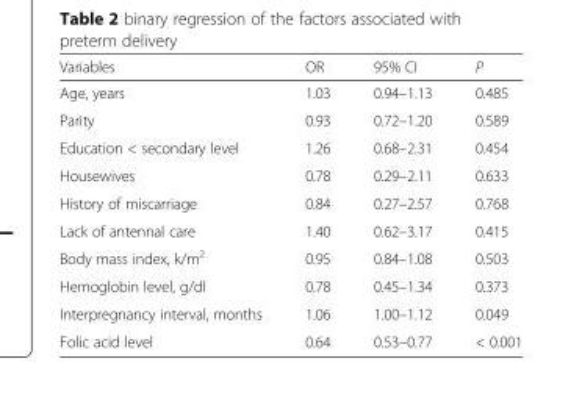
<table><thead><tr><td>Variables</td><td>OR</td><td>95% CI</td><td>P</td></tr></thead><tbody><tr><td>Age, years</td><td>1.03</td><td>0.94–1.13</td><td>0.485</td></tr><tr><td>Parity</td><td>0.93</td><td>0.72–1.20</td><td>0.589</td></tr><tr><td>Education &lt; secondary level</td><td>1.26</td><td>0.68–2.31</td><td>0.454</td></tr><tr><td>Housewives</td><td>0.78</td><td>0.29–2.11</td><td>0.633</td></tr><tr><td>History of miscarriage</td><td>0.84</td><td>0.27–2.57</td><td>0.768</td></tr><tr><td>Lack of antennal care</td><td>1.40</td><td>0.62–3.17</td><td>0.415</td></tr><tr><td>Body mass index, k/m<sup>2</sup></td><td>0.95</td><td>0.84–1.08</td><td>0.503</td></tr><tr><td>Hemoglobin level, g/dl</td><td>0.78</td><td>0.45–1.34</td><td>0.373</td></tr><tr><td>Interpregnancy interval, months</td><td>1.06</td><td>1.00–1.12</td><td>0.049</td></tr><tr><td>Folic acid level</td><td>0.64</td><td>0.53–0.77</td><td>&lt; 0.001</td></tr></tbody></table>